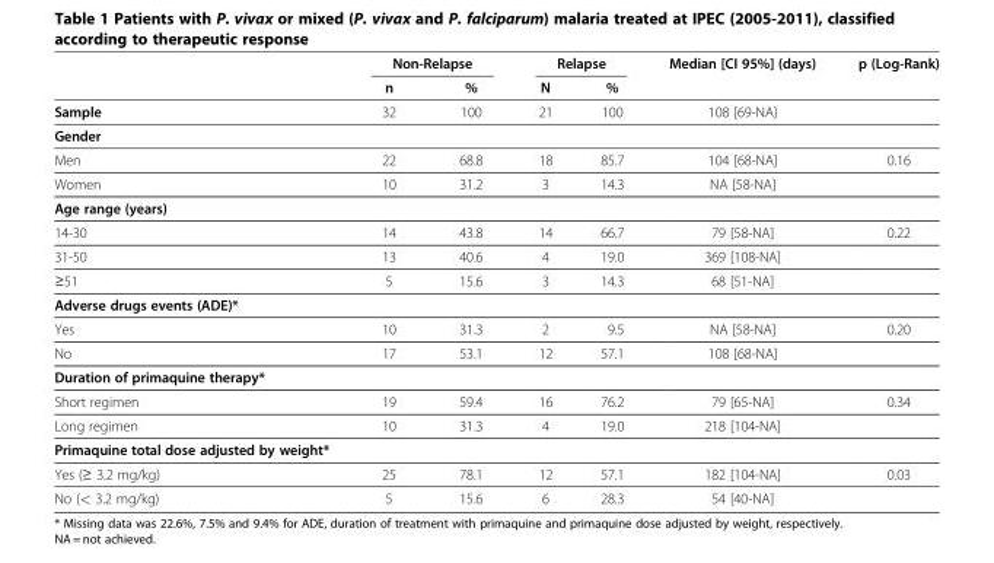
<table><thead><tr><td rowspan="2"></td><td colspan="2">Non-Relapse</td><td colspan="2">Relapse</td><td rowspan="2">Median [CI 95%] (days)</td><td rowspan="2">p (Log-Rank)</td></tr><tr><td>n</td><td>%</td><td>N</td><td>%</td></tr></thead><tbody><tr><td>Sample</td><td>32</td><td>100</td><td>21</td><td>100</td><td>108 [69-NA}</td><td></td></tr><tr><td colspan="7">Gender</td></tr><tr><td>Men</td><td>22</td><td>68.8</td><td>18</td><td>85.7</td><td>104 [68-NA]</td><td>0.16</td></tr><tr><td>Women</td><td>10</td><td>31.2</td><td>3</td><td>14.3</td><td>NA [58-NA]</td><td></td></tr><tr><td colspan="7">Age range (years)</td></tr><tr><td>14-30</td><td>14</td><td>43.8</td><td>14</td><td>66.7</td><td>79 [58-NA]</td><td>0.22</td></tr><tr><td>31-50</td><td>13</td><td>40.6</td><td>4</td><td>19.0</td><td>369 [108-NA]</td><td></td></tr><tr><td>≥51</td><td>5</td><td>15.6</td><td>3</td><td>14.3</td><td>68 [51-NA]</td><td></td></tr><tr><td colspan="7">Adverse drugs events (ADE)*</td></tr><tr><td>Yes</td><td>10</td><td>31.3</td><td>2</td><td>9.5</td><td>NA [58-NA]</td><td>0.20</td></tr><tr><td>No</td><td>17</td><td>53.1</td><td>12</td><td>57.1</td><td>108 [68-NA]</td><td></td></tr><tr><td colspan="7">Duration of primaquine therapy*</td></tr><tr><td>Short regimen</td><td>19</td><td>59.4</td><td>16</td><td>76.2</td><td>79 [65-NA]</td><td>0.34</td></tr><tr><td>Long regimen</td><td>10</td><td>31.3</td><td>4</td><td>19.0</td><td>218 [104-NA]</td><td></td></tr><tr><td colspan="7">Primaquine total dose adjusted by weight*</td></tr><tr><td>Yes (≥ 3.2 mg/kg)</td><td>25</td><td>78.1</td><td>12</td><td>57.1</td><td>182 [104-NA]</td><td>0.03</td></tr><tr><td>No (&lt; 3.2 mg/kg)</td><td>5</td><td>15.6</td><td>6</td><td>28.3</td><td>54 [40-NA]</td><td></td></tr></tbody></table>